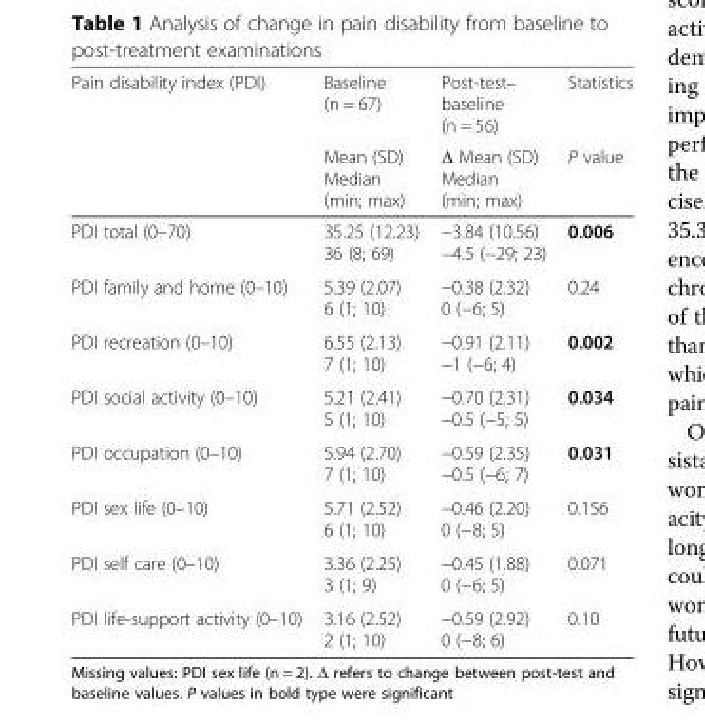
<table><thead><tr><td rowspan="2">Pain disability index (PDI)</td><td rowspan="2">Baseline (n = 67) Mean (SD) Median (min; max)</td><td rowspan="2">Post-test– baseline (n = 56) Δ Mean (SD) Median (min; max)</td><td rowspan="2">Statistics P value</td></tr><tr></tr></thead><tbody><tr><td>PDI total (0–70)</td><td>35.25 (12.23) 36 (8; 69)</td><td>−3.84 (10.56) −4.5 (−29; 23)</td><td>0.006</td></tr><tr><td>PDI family and home (0–10)</td><td>5.39 (2.07) 6 (1; 10)</td><td>−0.38 (2.32) 0 (−6; 5)</td><td>0.24</td></tr><tr><td>PDI recreation (0–10)</td><td>6.55 (2.13) 7 (1; 10)</td><td>−0.91 (2.11) −1 (−6; 4)</td><td>0.002</td></tr><tr><td>PDI social activity (0–10)</td><td>5.21 (2.41) 5 (1; 10)</td><td>−0.70 (2.31) −0.5 (−5; 5)</td><td>0.034</td></tr><tr><td>PDI occupation (0–10)</td><td>5.94 (2.70) 7 (1; 10)</td><td>−0.59 (2.35) −0.5 (−6; 7)</td><td>0.031</td></tr><tr><td>PDI sex life (0–10)</td><td>5.71 (2.52) 6 (1; 10)</td><td>−0.46 (2.20) 0 (−8; 5)</td><td>0.156</td></tr><tr><td>PDI self care (0–10)</td><td>3.36 (2.25) 3 (1; 9)</td><td>−0.45 (1.88) 0 (−6; 5)</td><td>0.071</td></tr><tr><td>PDI life-support activity (0–10)</td><td>3.16 (2.52) 2 (1; 10)</td><td>−0.59 (2.92) 0 (−8; 6)</td><td>0.10</td></tr></tbody></table>